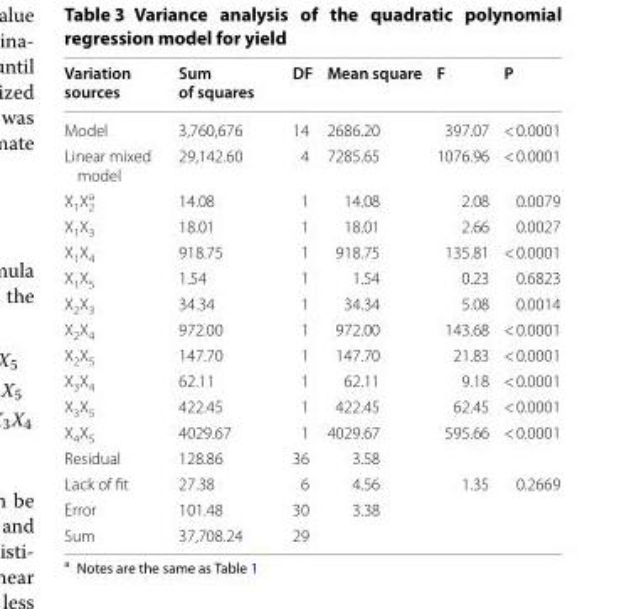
<table><thead><tr><td>Variation sources</td><td>Sum of squares</td><td>DF</td><td>Mean square</td><td>F</td><td>P</td></tr></thead><tbody><tr><td>Model</td><td>3,760,676</td><td>14</td><td>2686.20</td><td>397.07</td><td>&lt; 0.0001</td></tr><tr><td>Linear mixed model</td><td>29,142.60</td><td>4</td><td>7285.65</td><td>1076.96</td><td>&lt; 0.0001</td></tr><tr><td>X<sub>1</sub>X<sub>2</sub> <sup>a</sup></td><td>14.08</td><td>1</td><td>14.08</td><td>2.08</td><td>0.0079</td></tr><tr><td>X<sub>1</sub>X<sub>3</sub></td><td>18.01</td><td>1</td><td>18.01</td><td>2.66</td><td>0.0027</td></tr><tr><td>X<sub>1</sub>X<sub>4</sub></td><td>918.75</td><td>1</td><td>918.75</td><td>135.81</td><td>&lt; 0.0001</td></tr><tr><td>X<sub>1</sub>X<sub>5</sub></td><td>1.54</td><td>1</td><td>1.54</td><td>0.23</td><td>0.6823</td></tr><tr><td>X<sub>2</sub>X<sub>3</sub></td><td>34.34</td><td>1</td><td>34.34</td><td>5.08</td><td>0.0014</td></tr><tr><td>X<sub>2</sub>X<sub>4</sub></td><td>972.00</td><td>1</td><td>972.00</td><td>143.68</td><td>&lt; 0.0001</td></tr><tr><td>X<sub>2</sub>X<sub>5</sub></td><td>147.70</td><td>1</td><td>147.70</td><td>21.83</td><td>&lt; 0.0001</td></tr><tr><td>X<sub>3</sub>X<sub>4</sub></td><td>62.11</td><td>1</td><td>62.11</td><td>9.18</td><td>&lt; 0.0001</td></tr><tr><td>X<sub>3</sub>X<sub>5</sub></td><td>422.45</td><td>1</td><td>422.45</td><td>62.45</td><td>&lt; 0.0001</td></tr><tr><td>X<sub>4</sub>X<sub>5</sub></td><td>4029.67</td><td>1</td><td>4029.67</td><td>595.66</td><td>&lt; 0.0001</td></tr><tr><td>Residual</td><td>128.86</td><td>36</td><td>3.58</td><td></td><td></td></tr><tr><td>Lack of fit</td><td>27.38</td><td>6</td><td>4.56</td><td>1.35</td><td>0.2669</td></tr><tr><td>Error</td><td>101.48</td><td>30</td><td>3.38</td><td></td><td></td></tr><tr><td>Sum</td><td>37,708.24</td><td>29</td><td></td><td></td><td></td></tr></tbody></table>